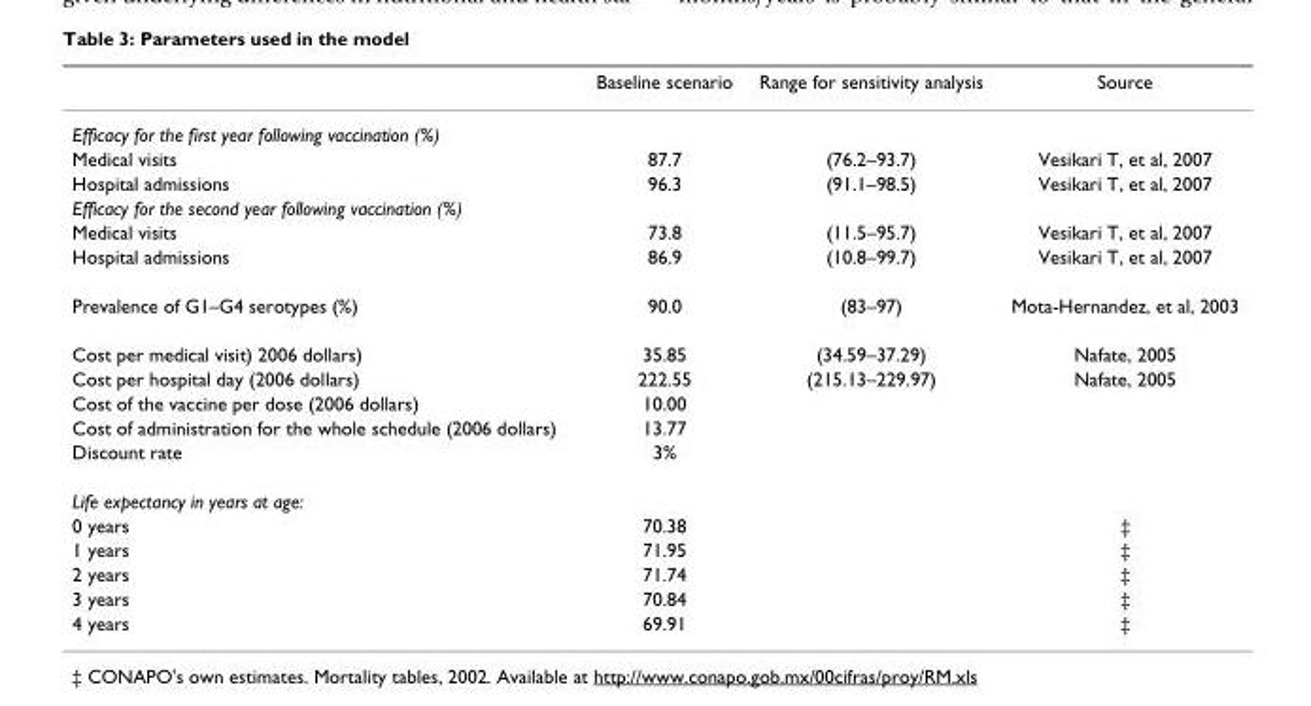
<table><thead><tr><td></td><td>Baseline scenario</td><td>Range for sensitivity analysis</td><td>Source</td></tr></thead><tbody><tr><td colspan="4">Efficacy for the first year following vaccination (%)</td></tr><tr><td>Medical visits</td><td>87.7</td><td>(76.2–93.7)</td><td>Vesikari T, et al, 2007</td></tr><tr><td>Hospital admissions</td><td>96.3</td><td>(91.1–98.5)</td><td>Vesikari T, et al, 2007</td></tr><tr><td colspan="4">Efficacy for the second year following vaccination (%)</td></tr><tr><td>Medical visits</td><td>73.8</td><td>(11.5–95.7)</td><td>Vesikari T, et al, 2007</td></tr><tr><td>Hospital admissions</td><td>86.9</td><td>(10.8–99.7)</td><td>Vesikari T, et al, 2007</td></tr><tr><td>Prevalence of G1–G4 serotypes (%)</td><td>90.0</td><td>(83–97)</td><td>Mota-Hernandez, et al, 2003</td></tr><tr><td>Cost per medical visit) 2006 dollars)</td><td>35.85</td><td>(34.59–37.29)</td><td>Nafate, 2005</td></tr><tr><td>Cost per hospital day (2006 dollars)</td><td>222.55</td><td>(215.13–229.97)</td><td>Nafate, 2005</td></tr><tr><td>Cost of the vaccine per dose (2006 dollars)</td><td>10.00</td><td></td><td></td></tr><tr><td>Cost of administration for the whole schedule (2006 dollars)</td><td>13.77</td><td></td><td></td></tr><tr><td>Discount rate</td><td>3%</td><td></td><td></td></tr><tr><td colspan="4">Life expectancy in years at age:</td></tr><tr><td>0 years</td><td>70.38</td><td></td><td>‡</td></tr><tr><td>1 years</td><td>71.95</td><td></td><td>‡</td></tr><tr><td>2 years</td><td>71.74</td><td></td><td>‡</td></tr><tr><td>3 years</td><td>70.84</td><td></td><td>‡</td></tr><tr><td>4 years</td><td>69.91</td><td></td><td>‡</td></tr></tbody></table>